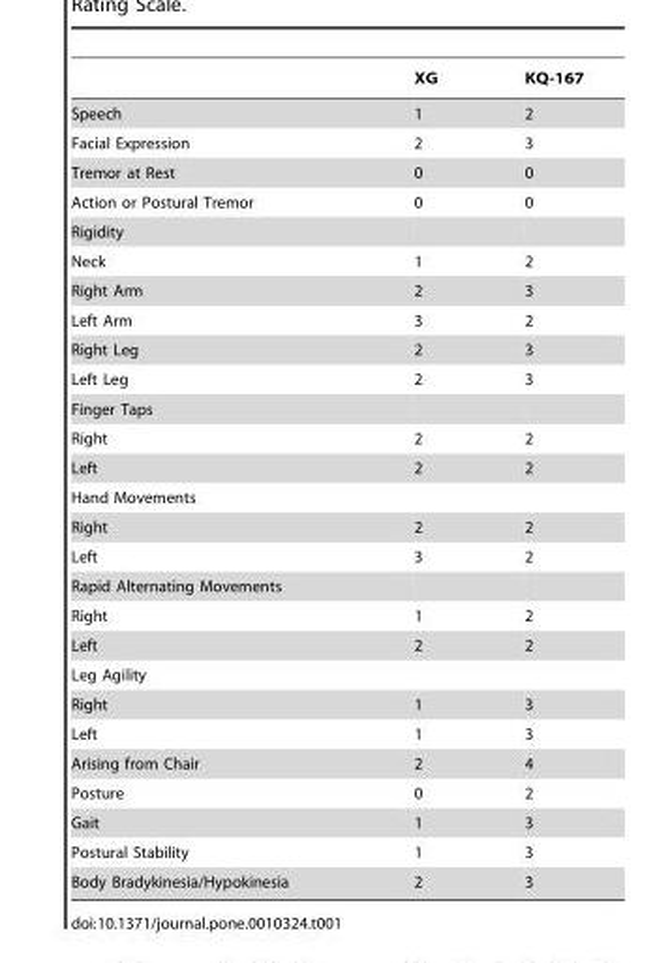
<table><thead><tr><td></td><td>XG</td><td>KQ-167</td></tr></thead><tbody><tr><td>Speech</td><td>1</td><td>2</td></tr><tr><td>Facial Expression</td><td>2</td><td>3</td></tr><tr><td>Tremor at Rest</td><td>0</td><td>0</td></tr><tr><td>Action or Postural Tremor</td><td>0</td><td>0</td></tr><tr><td colspan="3">Rigidity</td></tr><tr><td>Neck</td><td>1</td><td>2</td></tr><tr><td>Right Arm</td><td>2</td><td>3</td></tr><tr><td>Left Arm</td><td>3</td><td>2</td></tr><tr><td>Right Leg</td><td>2</td><td>3</td></tr><tr><td>Left Leg</td><td>2</td><td>3</td></tr><tr><td colspan="3">Finger Taps</td></tr><tr><td>Right</td><td>2</td><td>2</td></tr><tr><td>Left</td><td>2</td><td>2</td></tr><tr><td colspan="3">Hand Movements</td></tr><tr><td>Right</td><td>2</td><td>2</td></tr><tr><td>Left</td><td>3</td><td>2</td></tr><tr><td colspan="3">Rapid Alternating Movements</td></tr><tr><td>Right</td><td>1</td><td>2</td></tr><tr><td>Left</td><td>2</td><td>2</td></tr><tr><td colspan="3">Leg Agility</td></tr><tr><td>Right</td><td>1</td><td>3</td></tr><tr><td>Left</td><td>1</td><td>3</td></tr><tr><td>Arising from Chair</td><td>2</td><td>4</td></tr><tr><td>Posture</td><td>0</td><td>2</td></tr><tr><td>Gait</td><td>1</td><td>3</td></tr><tr><td>Postural Stability</td><td>1</td><td>3</td></tr><tr><td>Body Bradykinesia/Hypokinesia</td><td>2</td><td>3</td></tr></tbody></table>